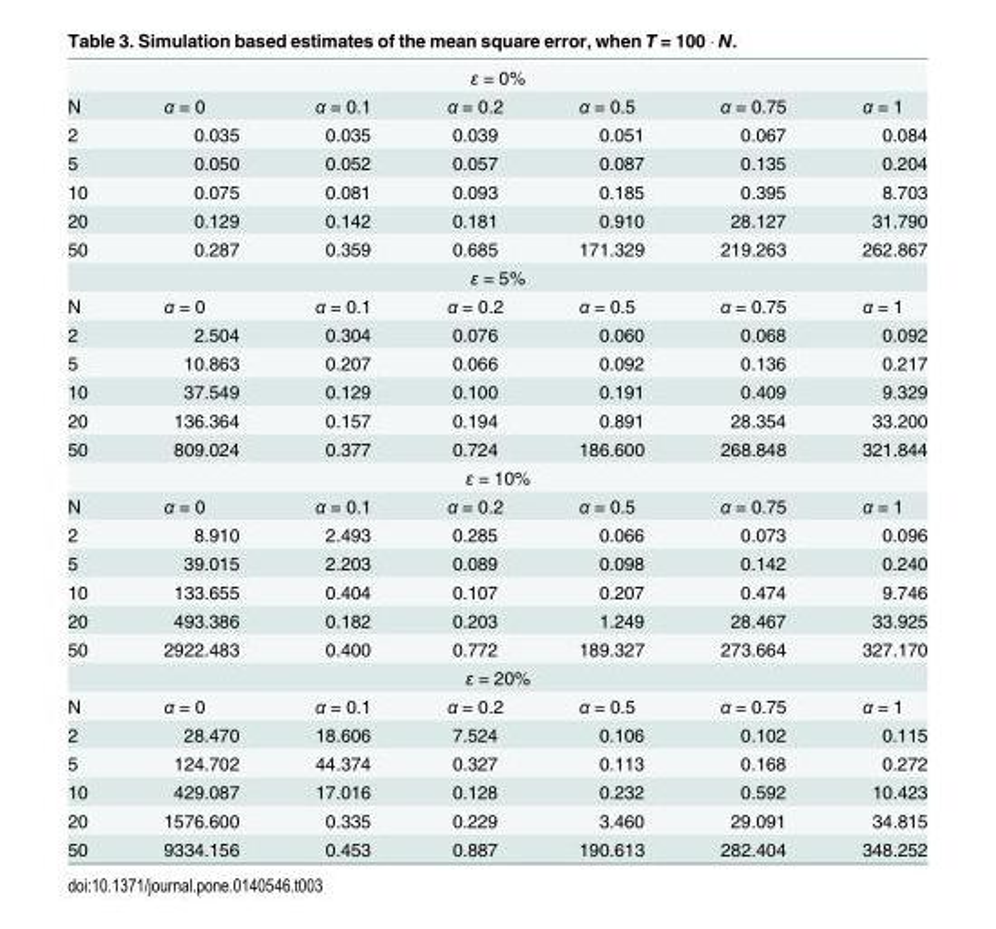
<table><tbody><tr><td colspan="7">ε = 0%</td></tr><tr><td>N</td><td>α = 0</td><td>α = 0.1</td><td>α = 0.2</td><td>α = 0.5</td><td>α = 0.75</td><td>α = 1</td></tr><tr><td>2</td><td>0.035</td><td>0.035</td><td>0.039</td><td>0.051</td><td>0.067</td><td>0.084</td></tr><tr><td>5</td><td>0.050</td><td>0.052</td><td>0.057</td><td>0.087</td><td>0.135</td><td>0.204</td></tr><tr><td>10</td><td>0.075</td><td>0.081</td><td>0.093</td><td>0.185</td><td>0.395</td><td>8.703</td></tr><tr><td>20</td><td>0.129</td><td>0.142</td><td>0.181</td><td>0.910</td><td>28.127</td><td>31.790</td></tr><tr><td>50</td><td>0.287</td><td>0.359</td><td>0.685</td><td>171.329</td><td>219.263</td><td>262.867</td></tr><tr><td colspan="7">ε = 5%</td></tr><tr><td>N</td><td>α = 0</td><td>α = 0.1</td><td>α = 0.2</td><td>α = 0.5</td><td>α = 0.75</td><td>α = 1</td></tr><tr><td>2</td><td>2.504</td><td>0.304</td><td>0.076</td><td>0.060</td><td>0.068</td><td>0.092</td></tr><tr><td>5</td><td>10.863</td><td>0.207</td><td>0.066</td><td>0.092</td><td>0.136</td><td>0.217</td></tr><tr><td>10</td><td>37.549</td><td>0.129</td><td>0.100</td><td>0.191</td><td>0.409</td><td>9.329</td></tr><tr><td>20</td><td>136.364</td><td>0.157</td><td>0.194</td><td>0.891</td><td>28.354</td><td>33.200</td></tr><tr><td>50</td><td>809.024</td><td>0.377</td><td>0.724</td><td>186.600</td><td>268.848</td><td>321.844</td></tr><tr><td colspan="7">ε = 10%</td></tr><tr><td>N</td><td>α = 0</td><td>α = 0.1</td><td>α = 0.2</td><td>α = 0.5</td><td>α = 0.75</td><td>α = 1</td></tr><tr><td>2</td><td>8.910</td><td>2.493</td><td>0.285</td><td>0.066</td><td>0.073</td><td>0.096</td></tr><tr><td>5</td><td>39.015</td><td>2.203</td><td>0.089</td><td>0.098</td><td>0.142</td><td>0.240</td></tr><tr><td>10</td><td>133.655</td><td>0.404</td><td>0.107</td><td>0.207</td><td>0.474</td><td>9.746</td></tr><tr><td>20</td><td>493.386</td><td>0.182</td><td>0.203</td><td>1.249</td><td>28.467</td><td>33.925</td></tr><tr><td>50</td><td>2922.483</td><td>0.400</td><td>0.772</td><td>189.327</td><td>273.664</td><td>327.170</td></tr><tr><td colspan="7">ε = 20%</td></tr><tr><td>N</td><td>α = 0</td><td>α = 0.1</td><td>α = 0.2</td><td>α = 0.5</td><td>α = 0.75</td><td>α = 1</td></tr><tr><td>2</td><td>28.470</td><td>18.606</td><td>7.524</td><td>0.106</td><td>0.102</td><td>0.115</td></tr><tr><td>5</td><td>124.702</td><td>44.374</td><td>0.327</td><td>0.113</td><td>0.168</td><td>0.272</td></tr><tr><td>10</td><td>429.087</td><td>17.016</td><td>0.128</td><td>0.232</td><td>0.592</td><td>10.423</td></tr><tr><td>20</td><td>1576.600</td><td>0.335</td><td>0.229</td><td>3.460</td><td>29.091</td><td>34.815</td></tr><tr><td>50</td><td>9334.156</td><td>0.453</td><td>0.887</td><td>190.613</td><td>282.404</td><td>348.252</td></tr></tbody></table>